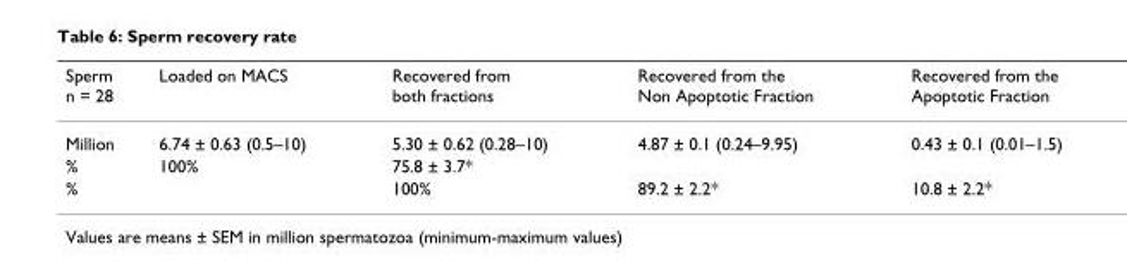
<table><thead><tr><td>Sperm n = 28</td><td>Loaded on MACS</td><td>Recovered from both fractions</td><td>Recovered from the Non Apoptotic Fraction</td><td>Recovered from the Apoptotic Fraction</td></tr></thead><tbody><tr><td>Million</td><td>6.74 ± 0.63 (0.5–10)</td><td>5.30 ± 0.62 (0.28–10)</td><td>4.87 ± 0.1 (0.24–9.95)</td><td>0.43 ± 0.1 (0.01–1.5)</td></tr><tr><td>%</td><td>100%</td><td>75.8 ± 3.7*</td><td></td><td></td></tr><tr><td>%</td><td></td><td>100%</td><td>89.2 ± 2.2*</td><td>10.8 ± 2.2*</td></tr></tbody></table>